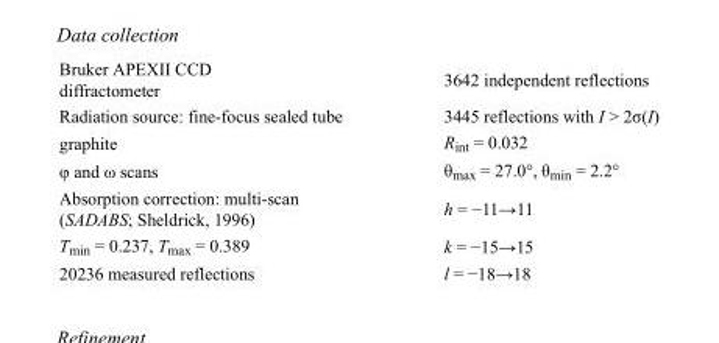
<table><tbody><tr><td>Bruker APEXII CCD diffractometer</td><td>3642 independent reflections</td></tr><tr><td>Radiation source: fine-focus sealed tube</td><td>3445 reflections with I &gt; 2σ(I)</td></tr><tr><td>graphite</td><td>R<sub>int</sub> = 0.032</td></tr><tr><td>φ and ω scans</td><td>θ<sub>max</sub> = 27.0°, θ<sub>min</sub> = 2.2°</td></tr><tr><td>Absorption correction: multi-scan (SADABS; Sheldrick, 1996)</td><td>h = −11→11</td></tr><tr><td>T<sub>min</sub> = 0.237, T<sub>max</sub> = 0.389</td><td>k = −15→15</td></tr><tr><td>20236 measured reflections</td><td>l = −18→18</td></tr></tbody></table>